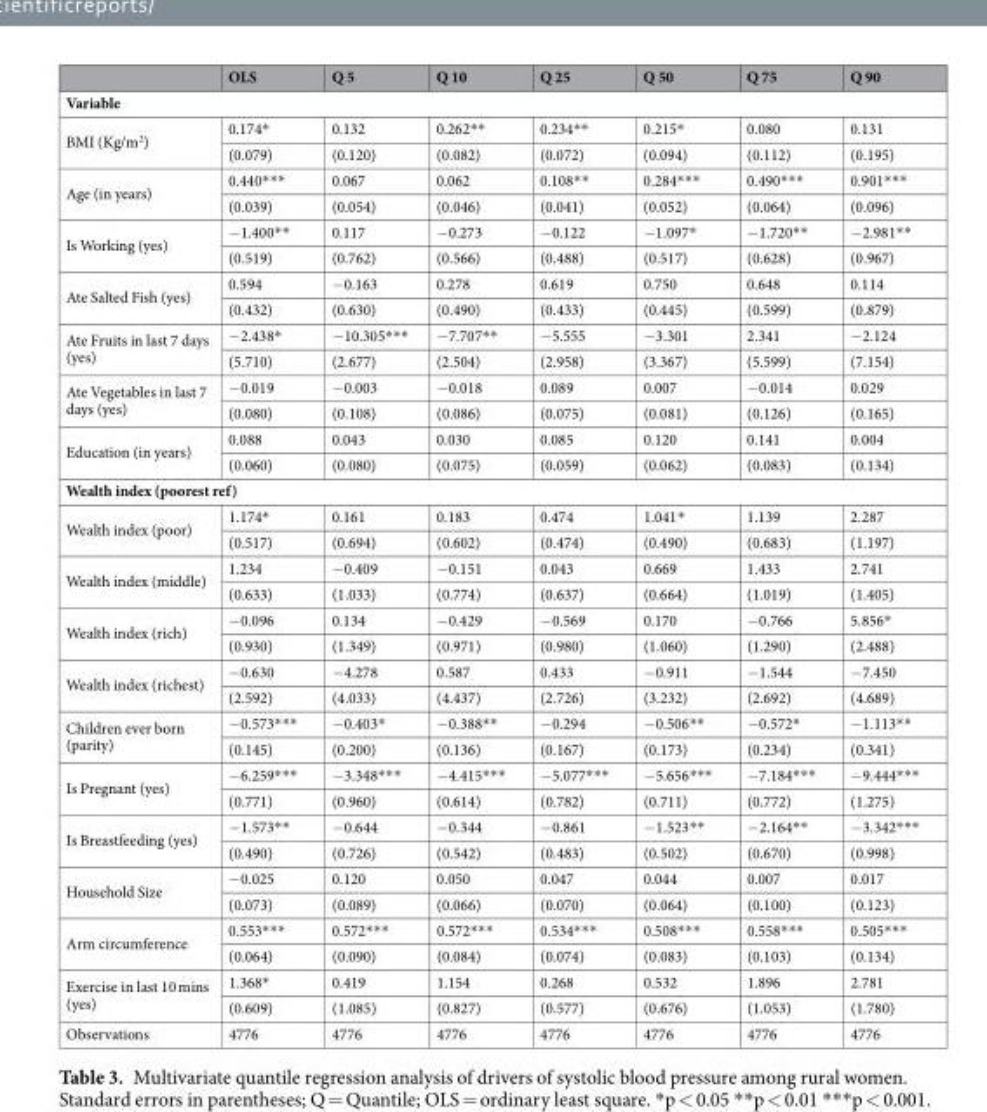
<table><thead><tr><td></td><td>OLS</td><td>Q 5</td><td>Q 10</td><td>Q 25</td><td>Q 50</td><td>Q 75</td><td>Q 90</td></tr></thead><tbody><tr><td colspan="8">Variable</td></tr><tr><td rowspan="2">BMI (Kg/m<sup>2</sup>)</td><td>0.174*</td><td>0.132</td><td>0.262**</td><td>0.234**</td><td>0.215*</td><td>0.080</td><td>0.131</td></tr><tr><td>(0.079)</td><td>(0.120)</td><td>(0.082)</td><td>(0.072)</td><td>(0.094)</td><td>(0.112)</td><td>(0.195)</td></tr><tr><td rowspan="2">Age (in years)</td><td>0.440***</td><td>0.067</td><td>0.062</td><td>0.108**</td><td>0.284***</td><td>0.490***</td><td>0.901***</td></tr><tr><td>(0.039)</td><td>(0.054)</td><td>(0.046)</td><td>(0.041)</td><td>(0.052)</td><td>(0.064)</td><td>(0.096)</td></tr><tr><td rowspan="2">Is Working (yes)</td><td>−1.400**</td><td>0.117</td><td>−0.273</td><td>−0.122</td><td>−1.097*</td><td>−1.720**</td><td>−2.981**</td></tr><tr><td>(0.519)</td><td>(0.762)</td><td>(0.566)</td><td>(0.488)</td><td>(0.517)</td><td>(0.628)</td><td>(0.967)</td></tr><tr><td rowspan="2">Ate Salted Fish (yes)</td><td>0.594</td><td>−0.163</td><td>0.278</td><td>0.619</td><td>0.750</td><td>0.648</td><td>0.114</td></tr><tr><td>(0.432)</td><td>(0.630)</td><td>(0.490)</td><td>(0.433)</td><td>(0.445)</td><td>(0.599)</td><td>(0.879)</td></tr><tr><td rowspan="2">Ate Fruits in last 7 days (yes)</td><td>−2.438*</td><td>−10.305***</td><td>−7.707**</td><td>−5.555</td><td>−3.301</td><td>2.341</td><td>−2.124</td></tr><tr><td>(5.710)</td><td>(2.677)</td><td>(2.504)</td><td>(2.958)</td><td>(3.367)</td><td>(5.599)</td><td>(7.154)</td></tr><tr><td rowspan="2">Ate Vegetables in last 7 days (yes)</td><td>−0.019</td><td>−0.003</td><td>−0.018</td><td>0.089</td><td>0.007</td><td>−0.014</td><td>0.029</td></tr><tr><td>(0.080)</td><td>(0.108)</td><td>(0.086)</td><td>(0.075)</td><td>(0.081)</td><td>(0.126)</td><td>(0.165)</td></tr><tr><td rowspan="2">Education (in years)</td><td>0.088</td><td>0.043</td><td>0.030</td><td>0.085</td><td>0.120</td><td>0.141</td><td>0.004</td></tr><tr><td>(0.060)</td><td>(0.080)</td><td>(0.075)</td><td>(0.059)</td><td>(0.062)</td><td>(0.083)</td><td>(0.134)</td></tr><tr><td colspan="8">Wealth index (poorest ref)</td></tr><tr><td rowspan="2">Wealth index (poor)</td><td>1.174*</td><td>0.161</td><td>0.183</td><td>0.474</td><td>1.041*</td><td>1.139</td><td>2.287</td></tr><tr><td>(0.517)</td><td>(0.694)</td><td>(0.602)</td><td>(0.474)</td><td>(0.490)</td><td>(0.683)</td><td>(1.197)</td></tr><tr><td rowspan="2">Wealth index (middle)</td><td>1.234</td><td>−0.409</td><td>−0.151</td><td>0.043</td><td>0.669</td><td>1.433</td><td>2.741</td></tr><tr><td>(0.633)</td><td>(1.033)</td><td>(0.774)</td><td>(0.637)</td><td>(0.664)</td><td>(1.019)</td><td>(1.405)</td></tr><tr><td rowspan="2">Wealth index (rich)</td><td>−0.096</td><td>0.134</td><td>−0.429</td><td>−0.569</td><td>0.170</td><td>−0.766</td><td>5.856*</td></tr><tr><td>(0.930)</td><td>(1.349)</td><td>(0.971)</td><td>(0.980)</td><td>(1.060)</td><td>(1.290)</td><td>(2.488)</td></tr><tr><td rowspan="2">Wealth index (richest)</td><td>−0.630</td><td>−4.278</td><td>0.587</td><td>0.433</td><td>−0.911</td><td>−1.544</td><td>−7.450</td></tr><tr><td>(2.592)</td><td>(4.033)</td><td>(4.437)</td><td>(2.726)</td><td>(3.232)</td><td>(2.692)</td><td>(4.689)</td></tr><tr><td rowspan="2">Children ever born (parity)</td><td>−0.573***</td><td>−0.403*</td><td>−0.388**</td><td>−0.294</td><td>−0.506**</td><td>−0.572*</td><td>−1.113**</td></tr><tr><td>(0.145)</td><td>(0.200)</td><td>(0.136)</td><td>(0.167)</td><td>(0.173)</td><td>(0.234)</td><td>(0.341)</td></tr><tr><td rowspan="2">Is Pregnant (yes)</td><td>−6.259***</td><td>−3.348***</td><td>−4.415***</td><td>−5.077***</td><td>−5.656***</td><td>−7.184***</td><td>−9.444***</td></tr><tr><td>(0.771)</td><td>(0.960)</td><td>(0.614)</td><td>(0.782)</td><td>(0.711)</td><td>(0.772)</td><td>(1.275)</td></tr><tr><td rowspan="2">Is Breastfeeding (yes)</td><td>−1.573**</td><td>−0.644</td><td>−0.344</td><td>−0.861</td><td>−1.523**</td><td>−2.164**</td><td>−3.342***</td></tr><tr><td>(0.490)</td><td>(0.726)</td><td>(0.542)</td><td>(0.483)</td><td>(0.502)</td><td>(0.670)</td><td>(0.998)</td></tr><tr><td rowspan="2">Household Size</td><td>−0.025</td><td>0.120</td><td>0.050</td><td>0.047</td><td>0.044</td><td>0.007</td><td>0.017</td></tr><tr><td>(0.073)</td><td>(0.089)</td><td>(0.066)</td><td>(0.070)</td><td>(0.064)</td><td>(0.100)</td><td>(0.123)</td></tr><tr><td rowspan="2">Arm circumference</td><td>0.553***</td><td>0.572***</td><td>0.572***</td><td>0.534***</td><td>0.508***</td><td>0.558***</td><td>0.505***</td></tr><tr><td>(0.064)</td><td>(0.090)</td><td>(0.084)</td><td>(0.074)</td><td>(0.083)</td><td>(0.103)</td><td>(0.134)</td></tr><tr><td rowspan="2">Exercise in last 10 mins (yes)</td><td>1.368*</td><td>0.419</td><td>1.154</td><td>0.268</td><td>0.532</td><td>1.896</td><td>2.781</td></tr><tr><td>(0.609)</td><td>(1.085)</td><td>(0.827)</td><td>(0.577)</td><td>(0.676)</td><td>(1.053)</td><td>(1.780)</td></tr><tr><td>Observations</td><td>4776</td><td>4776</td><td>4776</td><td>4776</td><td>4776</td><td>4776</td><td>4776</td></tr></tbody></table>